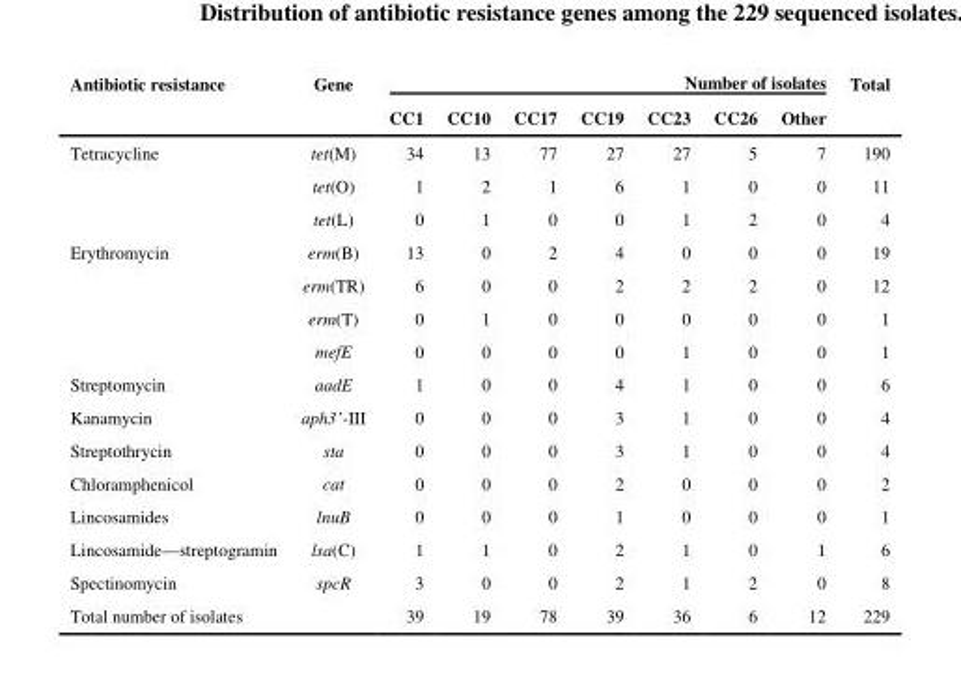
<table><thead><tr><td rowspan="2">Antibiotic resistance</td><td rowspan="2">Gene</td><td colspan="7">Number of isolates</td><td rowspan="2">Total</td></tr><tr><td>CC1</td><td>CC10</td><td>CC17</td><td>CC19</td><td>CC23</td><td>CC26</td><td>Other</td></tr></thead><tbody><tr><td rowspan="3">Tetracycline</td><td>tet(M)</td><td>34</td><td>13</td><td>77</td><td>27</td><td>27</td><td>5</td><td>7</td><td>190</td></tr><tr><td>tet(O)</td><td>1</td><td>2</td><td>1</td><td>6</td><td>1</td><td>0</td><td>0</td><td>11</td></tr><tr><td>tet(L)</td><td>0</td><td>1</td><td>0</td><td>0</td><td>1</td><td>2</td><td>0</td><td>4</td></tr><tr><td rowspan="4">Erythromycin</td><td>erm(B)</td><td>13</td><td>0</td><td>2</td><td>4</td><td>0</td><td>0</td><td>0</td><td>19</td></tr><tr><td>erm(TR)</td><td>6</td><td>0</td><td>0</td><td>2</td><td>2</td><td>2</td><td>0</td><td>12</td></tr><tr><td>erm(T)</td><td>0</td><td>1</td><td>0</td><td>0</td><td>0</td><td>0</td><td>0</td><td>1</td></tr><tr><td>mefE</td><td>0</td><td>0</td><td>0</td><td>0</td><td>1</td><td>0</td><td>0</td><td>1</td></tr><tr><td>Streptomycin</td><td>aadE</td><td>1</td><td>0</td><td>0</td><td>4</td><td>1</td><td>0</td><td>0</td><td>6</td></tr><tr><td>Kanamycin</td><td>aph3’-III</td><td>0</td><td>0</td><td>0</td><td>3</td><td>1</td><td>0</td><td>0</td><td>4</td></tr><tr><td>Streptothrycin</td><td>sta</td><td>0</td><td>0</td><td>0</td><td>3</td><td>1</td><td>0</td><td>0</td><td>4</td></tr><tr><td>Chloramphenicol</td><td>cat</td><td>0</td><td>0</td><td>0</td><td>2</td><td>0</td><td>0</td><td>0</td><td>2</td></tr><tr><td>Lincosamides</td><td>lnuB</td><td>0</td><td>0</td><td>0</td><td>1</td><td>0</td><td>0</td><td>0</td><td>1</td></tr><tr><td>Lincosamide—streptogramin</td><td>lsa(C)</td><td>1</td><td>1</td><td>0</td><td>2</td><td>1</td><td>0</td><td>1</td><td>6</td></tr><tr><td>Spectinomycin</td><td>spcR</td><td>3</td><td>0</td><td>0</td><td>2</td><td>1</td><td>2</td><td>0</td><td>8</td></tr><tr><td>Total number of isolates</td><td></td><td>39</td><td>19</td><td>78</td><td>39</td><td>36</td><td>6</td><td>12</td><td>229</td></tr></tbody></table>